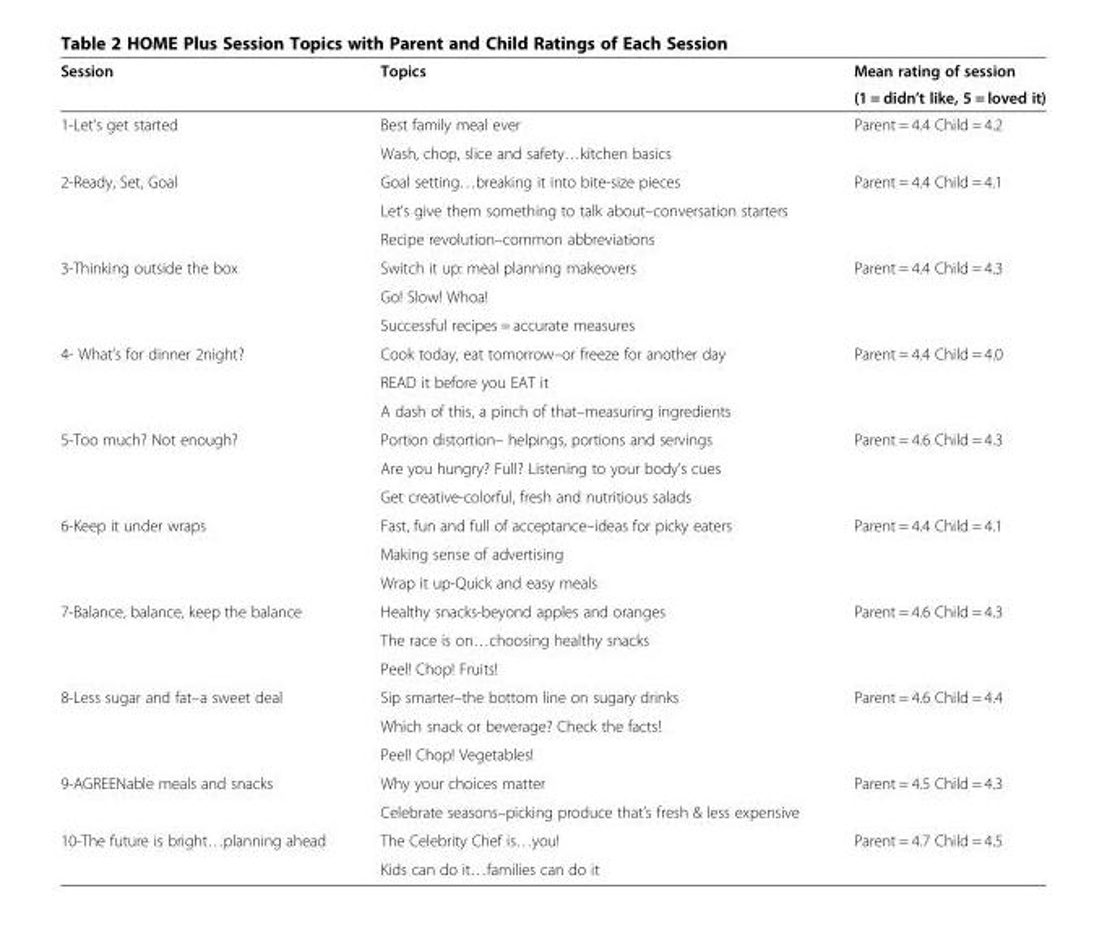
<table><thead><tr><td rowspan="2">Session</td><td rowspan="2">Topics</td><td rowspan="2">Mean rating of session (1 = didn’t like, 5 = loved it)</td></tr><tr></tr></thead><tbody><tr><td rowspan="2">1-Let’s get started</td><td>Best family meal ever</td><td rowspan="2">Parent = 4.4 Child = 4.2</td></tr><tr><td>Wash, chop, slice and safety…kitchen basics</td></tr><tr><td rowspan="3">2-Ready, Set, Goal</td><td>Goal setting…breaking it into bite-size pieces</td><td rowspan="3">Parent = 4.4 Child = 4.1</td></tr><tr><td>Let’s give them something to talk about–conversation starters</td></tr><tr><td>Recipe revolution–common abbreviations</td></tr><tr><td rowspan="3">3-Thinking outside the box</td><td>Switch it up: meal planning makeovers</td><td rowspan="3">Parent = 4.4 Child = 4.3</td></tr><tr><td>Go! Slow! Whoa!</td></tr><tr><td>Successful recipes = accurate measures</td></tr><tr><td rowspan="3">4- What’s for dinner 2night?</td><td>Cook today, eat tomorrow–or freeze for another day</td><td rowspan="3">Parent = 4.4 Child = 4.0</td></tr><tr><td>READ it before you EAT it</td></tr><tr><td>A dash of this, a pinch of that–measuring ingredients</td></tr><tr><td rowspan="3">5-Too much? Not enough?</td><td>Portion distortion– helpings, portions and servings</td><td rowspan="3">Parent = 4.6 Child = 4.3</td></tr><tr><td>Are you hungry? Full? Listening to your body’s cues</td></tr><tr><td>Get creative-colorful, fresh and nutritious salads</td></tr><tr><td rowspan="3">6-Keep it under wraps</td><td>Fast, fun and full of acceptance–ideas for picky eaters</td><td rowspan="3">Parent = 4.4 Child = 4.1</td></tr><tr><td>Making sense of advertising</td></tr><tr><td>Wrap it up-Quick and easy meals</td></tr><tr><td rowspan="3">7-Balance, balance, keep the balance</td><td>Healthy snacks-beyond apples and oranges</td><td rowspan="3">Parent = 4.6 Child = 4.3</td></tr><tr><td>The race is on…choosing healthy snacks</td></tr><tr><td>Peel! Chop! Fruits!</td></tr><tr><td rowspan="3">8-Less sugar and fat–a sweet deal</td><td>Sip smarter–the bottom line on sugary drinks</td><td rowspan="3">Parent = 4.6 Child = 4.4</td></tr><tr><td>Which snack or beverage? Check the facts!</td></tr><tr><td>Peel! Chop! Vegetables!</td></tr><tr><td rowspan="2">9-AGREENable meals and snacks</td><td>Why your choices matter</td><td rowspan="2">Parent = 4.5 Child = 4.3</td></tr><tr><td>Celebrate seasons–picking produce that’s fresh &amp; less expensive</td></tr><tr><td rowspan="2">10-The future is bright…planning ahead</td><td>The Celebrity Chef is…you!</td><td rowspan="2">Parent = 4.7 Child = 4.5</td></tr><tr><td>Kids can do it…families can do it</td></tr></tbody></table>